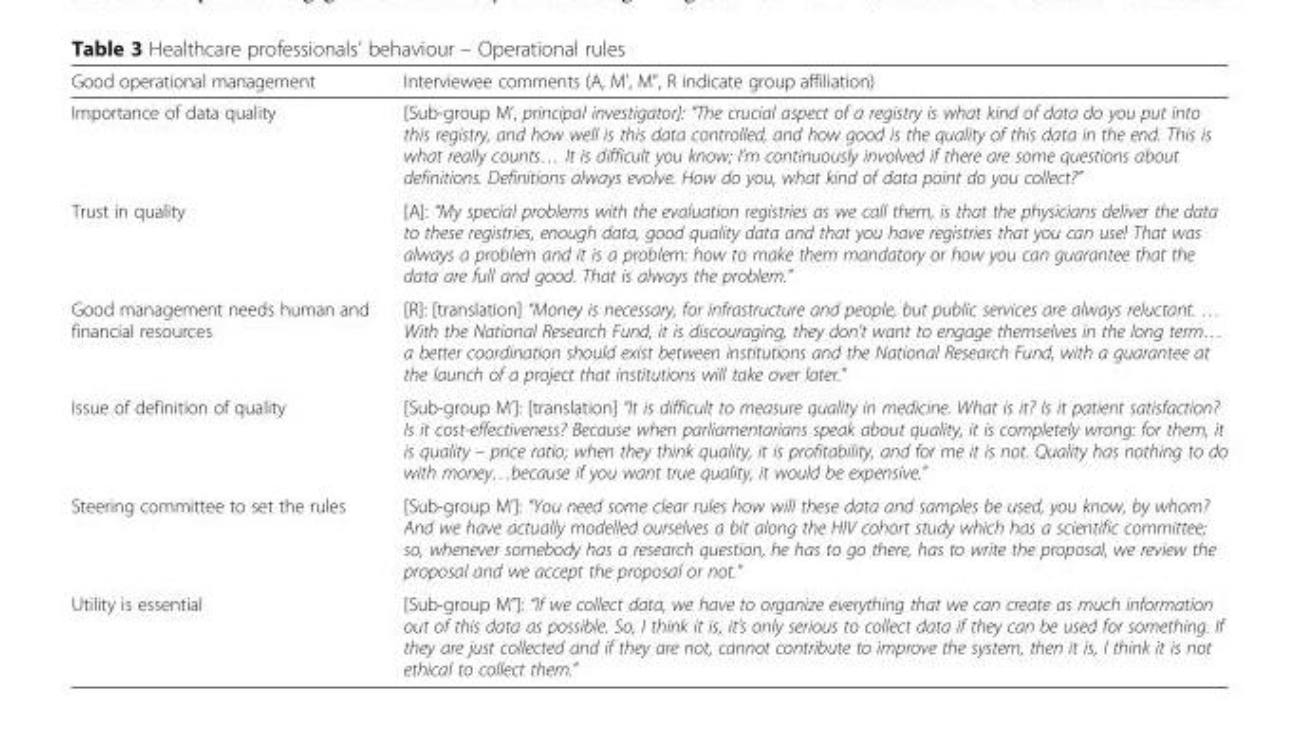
<table><thead><tr><td>Good operational management</td><td>Interviewee comments (A, M’, M”, R indicate group affiliation)</td></tr></thead><tbody><tr><td>Importance of data quality</td><td>[Sub-group M’, principal investigator]: “The crucial aspect of a registry is what kind of data do you put into this registry, and how well is this data controlled, and how good is the quality of this data in the end. This is what really counts… It is difficult you know; I’m continuously involved if there are some questions about definitions. Definitions always evolve. How do you, what kind of data point do you collect?”</td></tr><tr><td>Trust in quality</td><td>[A]: “My special problems with the evaluation registries as we call them, is that the physicians deliver the data to these registries, enough data, good quality data and that you have registries that you can use! That was always a problem and it is a problem: how to make them mandatory or how you can guarantee that the data are full and good. That is always the problem.”</td></tr><tr><td>Good management needs human and financial resources</td><td>[R]: [translation] “Money is necessary, for infrastructure and people, but public services are always reluctant. … With the National Research Fund, it is discouraging, they don’t want to engage themselves in the long term… a better coordination should exist between institutions and the National Research Fund, with a guarantee at the launch of a project that institutions will take over later.”</td></tr><tr><td>Issue of definition of quality</td><td>[Sub-group M’]: [translation] “It is difficult to measure quality in medicine. What is it? Is it patient satisfaction? Is it cost-effectiveness? Because when parliamentarians speak about quality, it is completely wrong: for them, it is quality – price ratio; when they think quality, it is profitability, and for me it is not. Quality has nothing to do with money…because if you want true quality, it would be expensive.”</td></tr><tr><td>Steering committee to set the rules</td><td>[Sub-group M’]: “You need some clear rules how will these data and samples be used, you know, by whom? And we have actually modelled ourselves a bit along the HIV cohort study which has a scientific committee; so, whenever somebody has a research question, he has to go there, has to write the proposal, we review the proposal and we accept the proposal or not.”</td></tr><tr><td>Utility is essential</td><td>[Sub-group M”]: “If we collect data, we have to organize everything that we can create as much information out of this data as possible. So, I think it is, it’s only serious to collect data if they can be used for something. If they are just collected and if they are not, cannot contribute to improve the system, then it is, I think it is not ethical to collect them.”</td></tr></tbody></table>